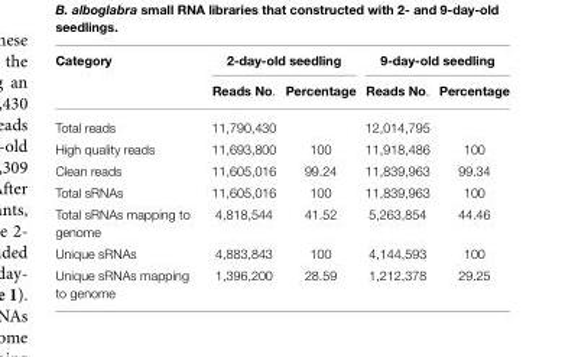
<table><thead><tr><td rowspan="2">Category</td><td colspan="2">2-day-old seedling</td><td colspan="2">9-day-old seedling</td></tr><tr><td>Reads No.</td><td>Percentage</td><td>Reads No.</td><td>Percentage</td></tr></thead><tbody><tr><td>Total reads</td><td>11,790,430</td><td></td><td>12,014,795</td><td></td></tr><tr><td>High quality reads</td><td>11,693,800</td><td>100</td><td>11,918,486</td><td>100</td></tr><tr><td>Clean reads</td><td>11,605,016</td><td>99.24</td><td>11,839,963</td><td>99.34</td></tr><tr><td>Total sRNAs</td><td>11,605,016</td><td>100</td><td>11,839,963</td><td>100</td></tr><tr><td>Total sRNAs mapping to genome</td><td>4,818,544</td><td>41.52</td><td>5,263,854</td><td>44.46</td></tr><tr><td>Unique sRNAs</td><td>4,883,843</td><td>100</td><td>4,144,593</td><td>100</td></tr><tr><td>Unique sRNAs mapping to genome</td><td>1,396,200</td><td>28.59</td><td>1,212,378</td><td>29.25</td></tr></tbody></table>